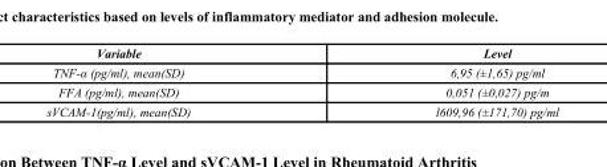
<table><thead><tr><td>Variable</td><td>Level</td></tr></thead><tbody><tr><td>TNF-α (pg/ml), mean(SD)</td><td>6,95 (±1,65) pg/ml</td></tr><tr><td>FFA (pg/ml), mean(SD)</td><td>0,051 (±0,027) pg/m</td></tr><tr><td>sVCAM-1(pg/ml), mean(SD)</td><td>l609,96 (±171,70) pg/ml</td></tr></tbody></table>